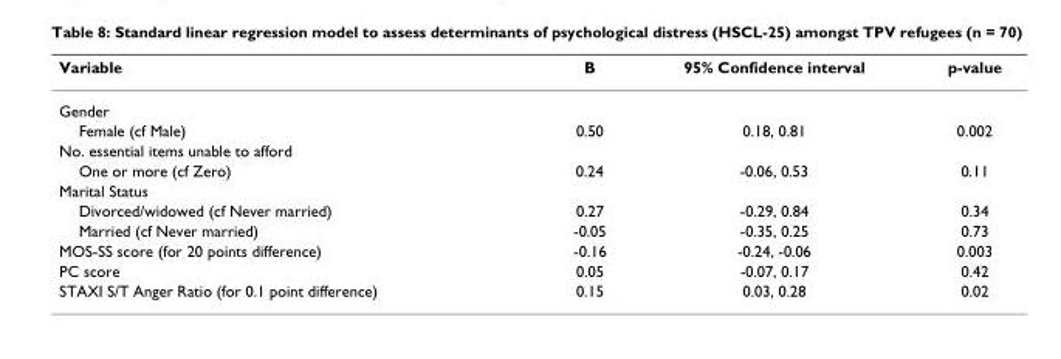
<table><thead><tr><td>Variable</td><td>B</td><td>95% Confidence interval</td><td>p-value</td></tr></thead><tbody><tr><td colspan="4">Gender</td></tr><tr><td>Female (cf Male)</td><td>0.50</td><td>0.18, 0.81</td><td>0.002</td></tr><tr><td colspan="4">No. essential items unable to afford</td></tr><tr><td>One or more (cf Zero)</td><td>0.24</td><td>-0.06, 0.53</td><td>0.11</td></tr><tr><td colspan="4">Marital Status</td></tr><tr><td>Divorced/widowed (cf Never married)</td><td>0.27</td><td>-0.29, 0.84</td><td>0.34</td></tr><tr><td>Married (cf Never married)</td><td>-0.05</td><td>-0.35, 0.25</td><td>0.73</td></tr><tr><td>MOS-SS score (for 20 points difference)</td><td>-0.16</td><td>-0.24, -0.06</td><td>0.003</td></tr><tr><td>PC score</td><td>0.05</td><td>-0.07, 0.17</td><td>0.42</td></tr><tr><td>STAXI S/T Anger Ratio (for 0.1 point difference)</td><td>0.15</td><td>0.03, 0.28</td><td>0.02</td></tr></tbody></table>